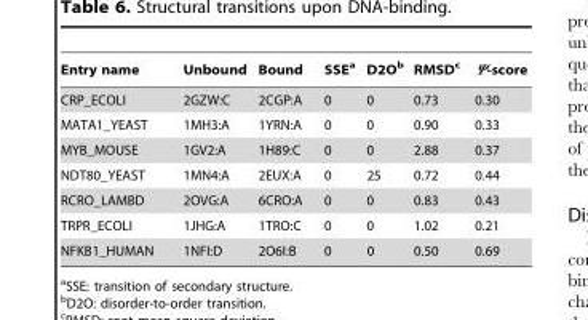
<table><thead><tr><td>Entry name</td><td>Unbound</td><td>Bound</td><td>SSE<sup>a</sup></td><td>D2O<sup>b</sup></td><td>RMSD<sup>c</sup></td><td>Ψ-score</td></tr></thead><tbody><tr><td>CRP_ECOLI</td><td>2GZW:C</td><td>2CGP:A</td><td>0</td><td>0</td><td>0.73</td><td>0.30</td></tr><tr><td>MATA1_YEAST</td><td>1MH3:A</td><td>1YRN:A</td><td>0</td><td>0</td><td>0.90</td><td>0.33</td></tr><tr><td>MYB_MOUSE</td><td>1GV2:A</td><td>1H89:C</td><td>0</td><td>0</td><td>2.88</td><td>0.37</td></tr><tr><td>NDT80_YEAST</td><td>1MN4:A</td><td>2EUX:A</td><td>0</td><td>25</td><td>0.72</td><td>0.44</td></tr><tr><td>RCRO_LAMBD</td><td>2OVG:A</td><td>6CRO:A</td><td>0</td><td>0</td><td>0.83</td><td>0.43</td></tr><tr><td>TRPR_ECOLI</td><td>1JHG:A</td><td>1TRO:C</td><td>0</td><td>0</td><td>1.02</td><td>0.21</td></tr><tr><td>NFKB1_HUMAN</td><td>1NFI:D</td><td>2O6I:B</td><td>0</td><td>0</td><td>0.50</td><td>0.69</td></tr></tbody></table>